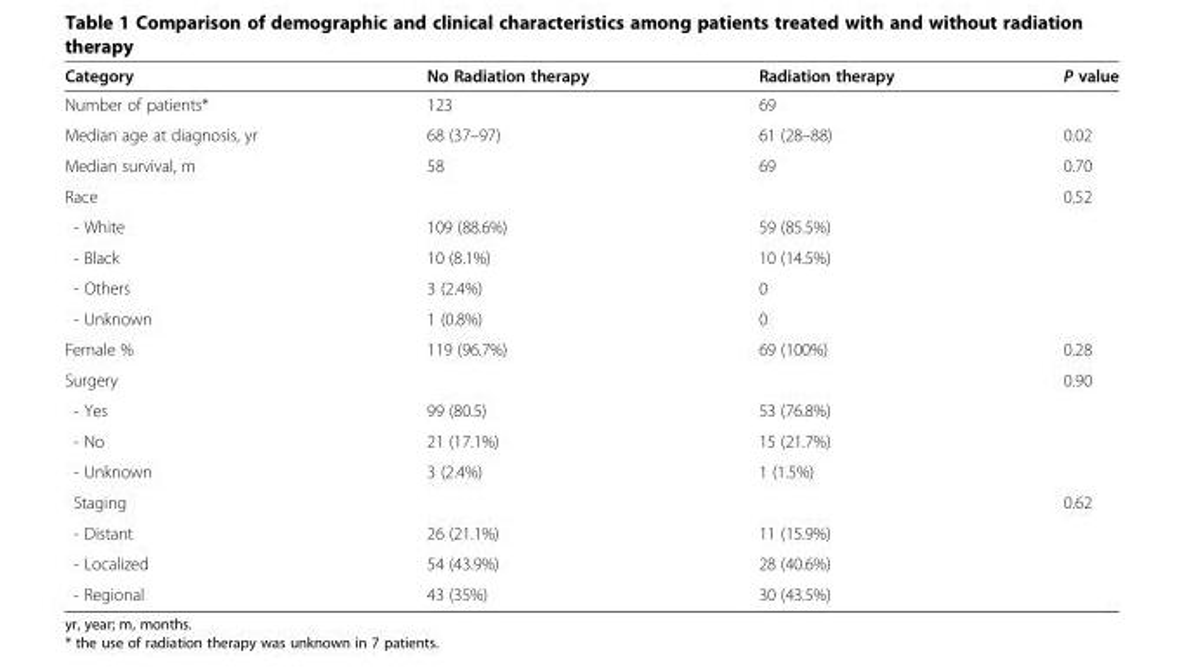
<table><thead><tr><td>Category</td><td>No Radiation therapy</td><td>Radiation therapy</td><td>P value</td></tr></thead><tbody><tr><td>Number of patients*</td><td>123</td><td>69</td><td></td></tr><tr><td>Median age at diagnosis, yr</td><td>68 (37–97)</td><td>61 (28–88)</td><td>0.02</td></tr><tr><td>Median survival, m</td><td>58</td><td>69</td><td>0.70</td></tr><tr><td>Race</td><td></td><td></td><td>0.52</td></tr><tr><td>- White</td><td>109 (88.6%)</td><td>59 (85.5%)</td><td></td></tr><tr><td>- Black</td><td>10 (8.1%)</td><td>10 (14.5%)</td><td></td></tr><tr><td>- Others</td><td>3 (2.4%)</td><td>0</td><td></td></tr><tr><td>- Unknown</td><td>1 (0.8%)</td><td>0</td><td></td></tr><tr><td>Female %</td><td>119 (96.7%)</td><td>69 (100%)</td><td>0.28</td></tr><tr><td>Surgery</td><td></td><td></td><td>0.90</td></tr><tr><td>- Yes</td><td>99 (80.5)</td><td>53 (76.8%)</td><td></td></tr><tr><td>- No</td><td>21 (17.1%)</td><td>15 (21.7%)</td><td></td></tr><tr><td>- Unknown</td><td>3 (2.4%)</td><td>1 (1.5%)</td><td></td></tr><tr><td>Staging</td><td></td><td></td><td>0.62</td></tr><tr><td>- Distant</td><td>26 (21.1%)</td><td>11 (15.9%)</td><td></td></tr><tr><td>- Localized</td><td>54 (43.9%)</td><td>28 (40.6%)</td><td></td></tr><tr><td>- Regional</td><td>43 (35%)</td><td>30 (43.5%)</td><td></td></tr></tbody></table>